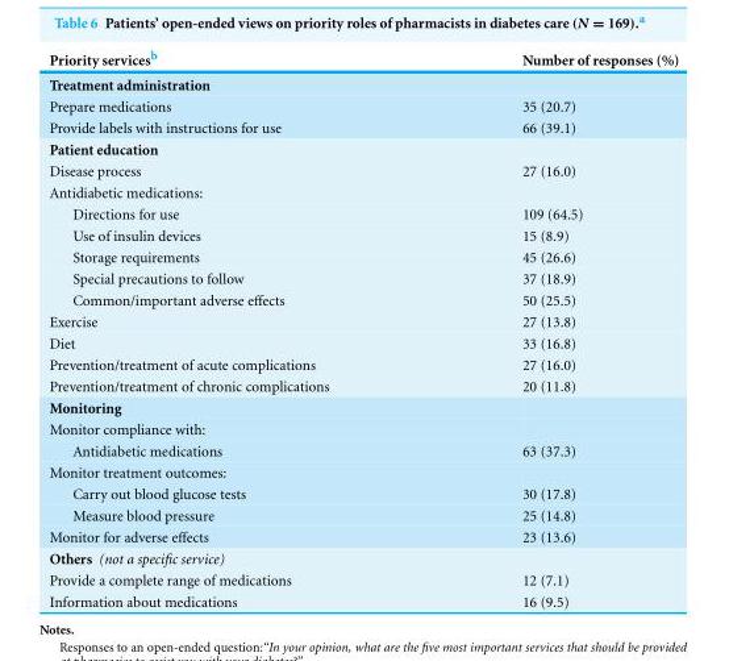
<table><thead><tr><td>Priority services<sup>b</sup></td><td>Number of responses (%)</td></tr></thead><tbody><tr><td colspan="2">Treatment administration</td></tr><tr><td>Prepare medications</td><td>35 (20.7)</td></tr><tr><td>Provide labels with instructions for use</td><td>66 (39.1)</td></tr><tr><td colspan="2">Patient education</td></tr><tr><td>Disease process</td><td>27 (16.0)</td></tr><tr><td colspan="2">Antidiabetic medications:</td></tr><tr><td>Directions for use</td><td>109 (64.5)</td></tr><tr><td>Use of insulin devices</td><td>15 (8.9)</td></tr><tr><td>Storage requirements</td><td>45 (26.6)</td></tr><tr><td>Special precautions to follow</td><td>37 (18.9)</td></tr><tr><td>Common/important adverse effects</td><td>50 (25.5)</td></tr><tr><td>Exercise</td><td>27 (13.8)</td></tr><tr><td>Diet</td><td>33 (16.8)</td></tr><tr><td>Prevention/treatment of acute complications</td><td>27 (16.0)</td></tr><tr><td>Prevention/treatment of chronic complications</td><td>20 (11.8)</td></tr><tr><td colspan="2">Monitoring</td></tr><tr><td colspan="2">Monitor compliance with:</td></tr><tr><td>Antidiabetic medications</td><td>63 (37.3)</td></tr><tr><td colspan="2">Monitor treatment outcomes:</td></tr><tr><td>Carry out blood glucose tests</td><td>30 (17.8)</td></tr><tr><td>Measure blood pressure</td><td>25 (14.8)</td></tr><tr><td>Monitor for adverse effects</td><td>23 (13.6)</td></tr><tr><td colspan="2">Others (not a specific service)</td></tr><tr><td>Provide a complete range of medications</td><td>12 (7.1)</td></tr><tr><td>Information about medications</td><td>16 (9.5)</td></tr></tbody></table>